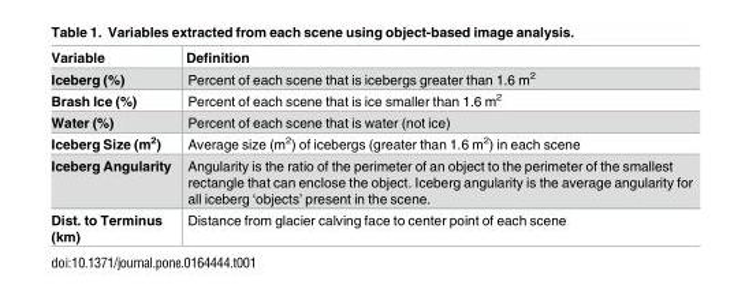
<table><thead><tr><td>Variable</td><td>Definition</td></tr></thead><tbody><tr><td>Iceberg (%)</td><td>Percent of each scene that is icebergs greater than 1.6 m<sup>2</sup></td></tr><tr><td>Brash Ice (%)</td><td>Percent of each scene that is ice smaller than 1.6 m<sup>2</sup></td></tr><tr><td>Water (%)</td><td>Percent of each scene that is water (not ice)</td></tr><tr><td>Iceberg Size (m<sup>2</sup>)</td><td>Average size (m<sup>2</sup>) of icebergs (greater than 1.6 m<sup>2</sup>) in each scene</td></tr><tr><td>Iceberg Angularity</td><td>Angularity is the ratio of the perimeter of an object to the perimeter of the smallest rectangle that can enclose the object. Iceberg angularity is the average angularity for all iceberg ‘objects’ present in the scene.</td></tr><tr><td>Dist. to Terminus (km)</td><td>Distance from glacier calving face to center point of each scene</td></tr></tbody></table>